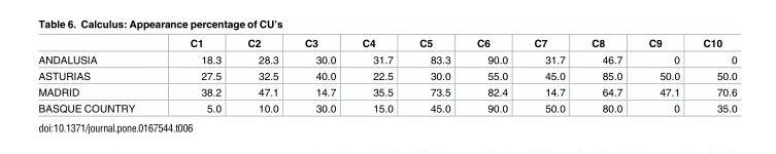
<table><thead><tr><td></td><td>C1</td><td>C2</td><td>C3</td><td>C4</td><td>C5</td><td>C6</td><td>C7</td><td>C8</td><td>C9</td><td>C10</td></tr></thead><tbody><tr><td>ANDALUSIA</td><td>18.3</td><td>28.3</td><td>30.0</td><td>31.7</td><td>83.3</td><td>90.0</td><td>31.7</td><td>46.7</td><td>0</td><td>0</td></tr><tr><td>ASTURIAS</td><td>27.5</td><td>32.5</td><td>40.0</td><td>22.5</td><td>30.0</td><td>55.0</td><td>45.0</td><td>85.0</td><td>50.0</td><td>50.0</td></tr><tr><td>MADRID</td><td>38.2</td><td>47.1</td><td>14.7</td><td>35.5</td><td>73.5</td><td>82.4</td><td>14.7</td><td>64.7</td><td>47.1</td><td>70.6</td></tr><tr><td>BASQUE COUNTRY</td><td>5.0</td><td>10.0</td><td>30.0</td><td>15.0</td><td>45.0</td><td>90.0</td><td>50.0</td><td>80.0</td><td>0</td><td>35.0</td></tr></tbody></table>